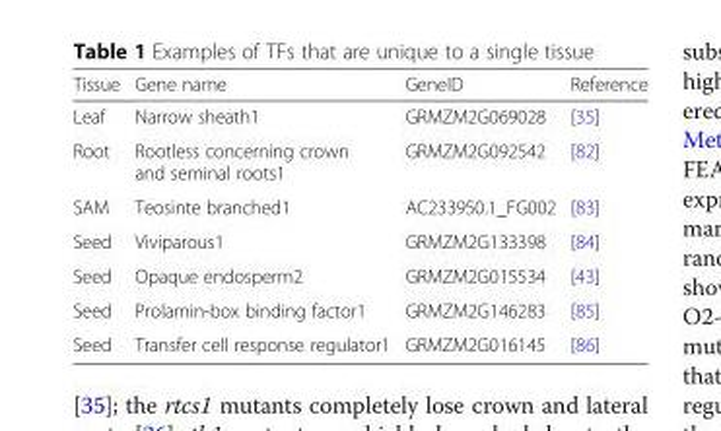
<table><thead><tr><td>Tissue</td><td>Gene name</td><td>GeneID</td><td>Reference</td></tr></thead><tbody><tr><td>Leaf</td><td>Narrow sheath1</td><td>GRMZM2G069028</td><td>[35]</td></tr><tr><td>Root</td><td>Rootless concerning crown and seminal roots1</td><td>GRMZM2G092542</td><td>[82]</td></tr><tr><td>SAM</td><td>Teosinte branched1</td><td>AC233950.1_FG002</td><td>[83]</td></tr><tr><td>Seed</td><td>Viviparous1</td><td>GRMZM2G133398</td><td>[84]</td></tr><tr><td>Seed</td><td>Opaque endosperm2</td><td>GRMZM2G015534</td><td>[43]</td></tr><tr><td>Seed</td><td>Prolamin-box binding factor1</td><td>GRMZM2G146283</td><td>[85]</td></tr><tr><td>Seed</td><td>Transfer cell response regulator1</td><td>GRMZM2G016145</td><td>[86]</td></tr></tbody></table>